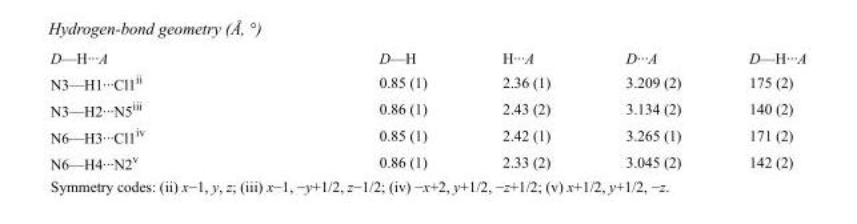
<table><tbody><tr><td>D—H···A</td><td>D—H</td><td>H···A</td><td>D···A</td><td>D—H···A</td></tr><tr><td>N3—H1···Cl1<sup>ii</sup></td><td>0.85 (1)</td><td>2.36 (1)</td><td>3.209 (2)</td><td>175 (2)</td></tr><tr><td>N3—H2···N5<sup>iii</sup></td><td>0.86 (1)</td><td>2.43 (2)</td><td>3.134 (2)</td><td>140 (2)</td></tr><tr><td>N6—H3···Cl1<sup>iv</sup></td><td>0.85 (1)</td><td>2.42 (1)</td><td>3.265 (1)</td><td>171 (2)</td></tr><tr><td>N6—H4···N2<sup>v</sup></td><td>0.86 (1)</td><td>2.33 (2)</td><td>3.045 (2)</td><td>142 (2)</td></tr></tbody></table>